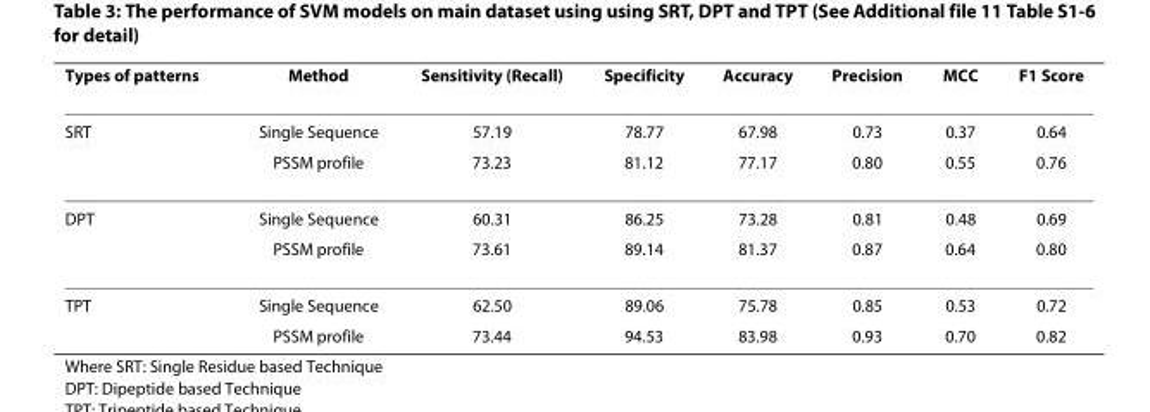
<table><thead><tr><td>Types of patterns</td><td>Method</td><td>Sensitivity (Recall)</td><td>Specificity</td><td>Accuracy</td><td>Precision</td><td>MCC</td><td>F1 Score</td></tr></thead><tbody><tr><td rowspan="2">SRT</td><td>Single Sequence</td><td>57.19</td><td>78.77</td><td>67.98</td><td>0.73</td><td>0.37</td><td>0.64</td></tr><tr><td>PSSM profile</td><td>73.23</td><td>81.12</td><td>77.17</td><td>0.80</td><td>0.55</td><td>0.76</td></tr><tr><td rowspan="2">DPT</td><td>Single Sequence</td><td>60.31</td><td>86.25</td><td>73.28</td><td>0.81</td><td>0.48</td><td>0.69</td></tr><tr><td>PSSM profile</td><td>73.61</td><td>89.14</td><td>81.37</td><td>0.87</td><td>0.64</td><td>0.80</td></tr><tr><td rowspan="2">TPT</td><td>Single Sequence</td><td>62.50</td><td>89.06</td><td>75.78</td><td>0.85</td><td>0.53</td><td>0.72</td></tr><tr><td>PSSM profile</td><td>73.44</td><td>94.53</td><td>83.98</td><td>0.93</td><td>0.70</td><td>0.82</td></tr></tbody></table>